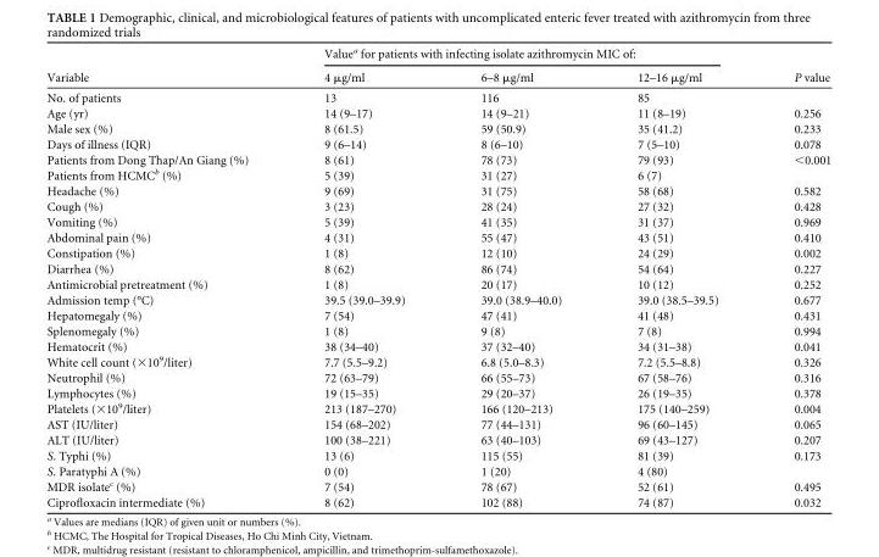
<table><thead><tr><td rowspan="2">Variable</td><td colspan="3">Value<sup>a</sup> for patients with infecting isolate azithromycin MIC of:</td><td rowspan="2">P value</td></tr><tr><td>4 μg/ml</td><td>6–8 μg/ml</td><td>12–16 μg/ml</td></tr></thead><tbody><tr><td>No. of patients</td><td>13</td><td>116</td><td>85</td><td></td></tr><tr><td>Age (yr)</td><td>14 (9–17)</td><td>14 (9–21)</td><td>11 (8–19)</td><td>0.256</td></tr><tr><td>Male sex (%)</td><td>8 (61.5)</td><td>59 (50.9)</td><td>35 (41.2)</td><td>0.233</td></tr><tr><td>Days of illness (IQR)</td><td>9 (6–14)</td><td>8 (6–10)</td><td>7 (5–10)</td><td>0.078</td></tr><tr><td>Patients from Dong Thap/An Giang (%)</td><td>8 (61)</td><td>78 (73)</td><td>79 (93)</td><td>&lt;0.001</td></tr><tr><td>Patients from HCMC<sup>b</sup> (%)</td><td>5 (39)</td><td>31 (27)</td><td>6 (7)</td><td></td></tr><tr><td>Headache (%)</td><td>9 (69)</td><td>31 (75)</td><td>58 (68)</td><td>0.582</td></tr><tr><td>Cough (%)</td><td>3 (23)</td><td>28 (24)</td><td>27 (32)</td><td>0.428</td></tr><tr><td>Vomiting (%)</td><td>5 (39)</td><td>41 (35)</td><td>31 (37)</td><td>0.969</td></tr><tr><td>Abdominal pain (%)</td><td>4 (31)</td><td>55 (47)</td><td>43 (51)</td><td>0.410</td></tr><tr><td>Constipation (%)</td><td>1 (8)</td><td>12 (10)</td><td>24 (29)</td><td>0.002</td></tr><tr><td>Diarrhea (%)</td><td>8 (62)</td><td>86 (74)</td><td>54 (64)</td><td>0.227</td></tr><tr><td>Antimicrobial pretreatment (%)</td><td>1 (8)</td><td>20 (17)</td><td>10 (12)</td><td>0.252</td></tr><tr><td>Admission temp (°C)</td><td>39.5 (39.0–39.9)</td><td>39.0 (38.9–40.0)</td><td>39.0 (38.5–39.5)</td><td>0.677</td></tr><tr><td>Hepatomegaly (%)</td><td>7 (54)</td><td>47 (41)</td><td>41 (48)</td><td>0.431</td></tr><tr><td>Splenomegaly (%)</td><td>1 (8)</td><td>9 (8)</td><td>7 (8)</td><td>0.994</td></tr><tr><td>Hematocrit (%)</td><td>38 (34–40)</td><td>37 (32–40)</td><td>34 (31–38)</td><td>0.041</td></tr><tr><td>White cell count (×10<sup>9</sup>/liter)</td><td>7.7 (5.5–9.2)</td><td>6.8 (5.0–8.3)</td><td>7.2 (5.5–8.8)</td><td>0.326</td></tr><tr><td>Neutrophil (%)</td><td>72 (63–79)</td><td>66 (55–73)</td><td>67 (58–76)</td><td>0.316</td></tr><tr><td>Lymphocytes (%)</td><td>19 (15–35)</td><td>29 (20–37)</td><td>26 (19–35)</td><td>0.378</td></tr><tr><td>Platelets (×10<sup>9</sup>/liter)</td><td>213 (187–270)</td><td>166 (120–213)</td><td>175 (140–259)</td><td>0.004</td></tr><tr><td>AST (IU/liter)</td><td>154 (68–202)</td><td>77 (44–131)</td><td>96 (60–145)</td><td>0.065</td></tr><tr><td>ALT (IU/liter)</td><td>100 (38–221)</td><td>63 (40–103)</td><td>69 (43–127)</td><td>0.207</td></tr><tr><td>S. Typhi (%)</td><td>13 (6)</td><td>115 (55)</td><td>81 (39)</td><td>0.173</td></tr><tr><td>S. Paratyphi A (%)</td><td>0 (0)</td><td>1 (20)</td><td>4 (80)</td><td></td></tr><tr><td>MDR isolate<sup>c</sup> (%)</td><td>7 (54)</td><td>78 (67)</td><td>52 (61)</td><td>0.495</td></tr><tr><td>Ciprofloxacin intermediate (%)</td><td>8 (62)</td><td>102 (88)</td><td>74 (87)</td><td>0.032</td></tr></tbody></table>